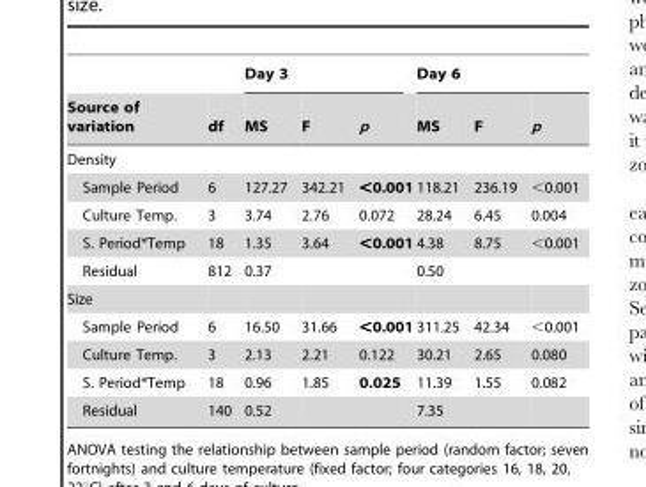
<table><thead><tr><td rowspan="2">Source of variation</td><td rowspan="2">df</td><td colspan="3">Day 3</td><td colspan="3">Day 6</td></tr><tr><td>MS</td><td>F</td><td>p</td><td>MS</td><td>F</td><td>p</td></tr></thead><tbody><tr><td colspan="8">Density</td></tr><tr><td>Sample Period</td><td>6</td><td>127.27</td><td>342.21</td><td>&lt;0.001</td><td>118.21</td><td>236.19</td><td>&lt;0.001</td></tr><tr><td>Culture Temp.</td><td>3</td><td>3.74</td><td>2.76</td><td>0.072</td><td>28.24</td><td>6.45</td><td>0.004</td></tr><tr><td>S. Period*Temp</td><td>18</td><td>1.35</td><td>3.64</td><td>&lt;0.001</td><td>4.38</td><td>8.75</td><td>&lt;0.001</td></tr><tr><td>Residual</td><td>812</td><td>0.37</td><td></td><td></td><td>0.50</td><td></td><td></td></tr><tr><td colspan="8">Size</td></tr><tr><td>Sample Period</td><td>6</td><td>16.50</td><td>31.66</td><td>&lt;0.001</td><td>311.25</td><td>42.34</td><td>&lt;0.001</td></tr><tr><td>Culture Temp.</td><td>3</td><td>2.13</td><td>2.21</td><td>0.122</td><td>30.21</td><td>2.65</td><td>0.080</td></tr><tr><td>S. Period*Temp</td><td>18</td><td>0.96</td><td>1.85</td><td>0.025</td><td>11.39</td><td>1.55</td><td>0.082</td></tr><tr><td>Residual</td><td>140</td><td>0.52</td><td></td><td></td><td>7.35</td><td></td><td></td></tr></tbody></table>